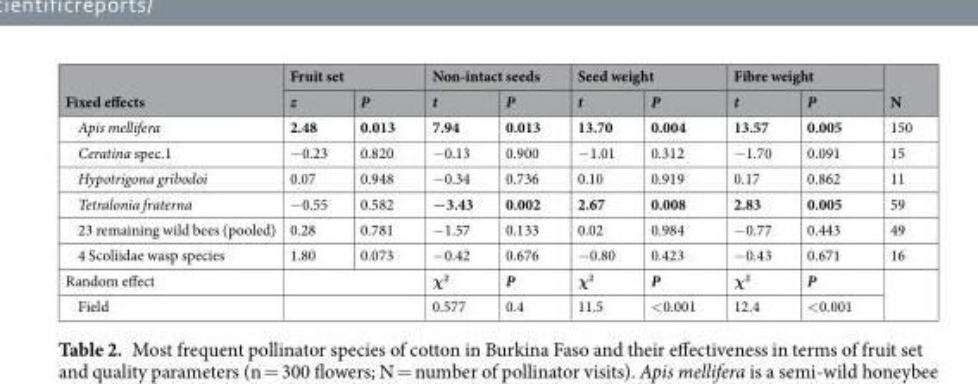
<table><thead><tr><td rowspan="2">Fixed effects</td><td colspan="2">Fruit set</td><td colspan="2">Non-intact seeds</td><td colspan="2">Seed weight</td><td colspan="2">Fibre weight</td><td rowspan="2">N</td></tr><tr><td>z</td><td>P</td><td>t</td><td>P</td><td>t</td><td>P</td><td>t</td><td>P</td></tr></thead><tbody><tr><td>Apis mellifera</td><td>2.48</td><td>0.013</td><td>7.94</td><td>0.013</td><td>13.70</td><td>0.004</td><td>13.57</td><td>0.005</td><td>150</td></tr><tr><td>Ceratina spec.1</td><td>−0.23</td><td>0.820</td><td>−0.13</td><td>0.900</td><td>−1.01</td><td>0.312</td><td>−1.70</td><td>0.091</td><td>15</td></tr><tr><td>Hypotrigona gribodoi</td><td>0.07</td><td>0.948</td><td>−0.34</td><td>0.736</td><td>0.10</td><td>0.919</td><td>0.17</td><td>0.862</td><td>11</td></tr><tr><td>Tetralonia fraterna</td><td>−0.55</td><td>0.582</td><td>−3.43</td><td>0.002</td><td>2.67</td><td>0.008</td><td>2.83</td><td>0.005</td><td>59</td></tr><tr><td>23 remaining wild bees (pooled)</td><td>0.28</td><td>0.781</td><td>−1.57</td><td>0.133</td><td>0.02</td><td>0.984</td><td>−0.77</td><td>0.443</td><td>49</td></tr><tr><td>4 Scoliidae wasp species</td><td>1.80</td><td>0.073</td><td>−0.42</td><td>0.676</td><td>−0.80</td><td>0.423</td><td>−0.43</td><td>0.671</td><td>16</td></tr><tr><td>Random effect</td><td colspan="2"></td><td>χ<sup>2</sup></td><td>P</td><td>χ<sup>2</sup></td><td>P</td><td>χ<sup>2</sup></td><td>P</td><td rowspan="2"></td></tr><tr><td>Field</td><td colspan="2"></td><td>0.577</td><td>0.4</td><td>11.5</td><td>&lt;0.001</td><td>12.4</td><td>&lt;0.001</td></tr></tbody></table>